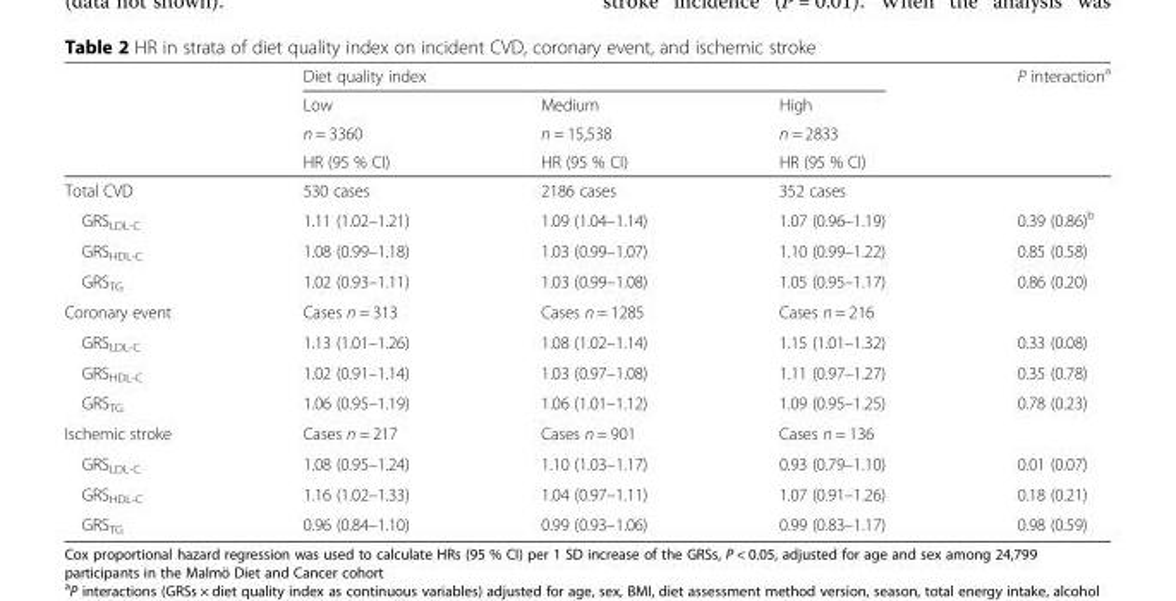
<table><thead><tr><td rowspan="4"></td><td colspan="3">Diet quality index</td><td rowspan="4">P interaction<sup>a</sup></td></tr><tr><td rowspan="3">Low n = 3360 HR (95 % CI)</td><td rowspan="3">Medium n = 15,538 HR (95 % CI)</td><td rowspan="3">High n = 2833 HR (95 % CI)</td></tr><tr></tr><tr></tr></thead><tbody><tr><td>Total CVD</td><td>530 cases</td><td>2186 cases</td><td>352 cases</td><td></td></tr><tr><td>GRS<sub>LDL-C</sub></td><td>1.11 (1.02–1.21)</td><td>1.09 (1.04–1.14)</td><td>1.07 (0.96–1.19)</td><td>0.39 (0.86)<sup>b</sup></td></tr><tr><td>GRS<sub>HDL-C</sub></td><td>1.08 (0.99–1.18)</td><td>1.03 (0.99–1.07)</td><td>1.10 (0.99–1.22)</td><td>0.85 (0.58)</td></tr><tr><td>GRS<sub>TG</sub></td><td>1.02 (0.93–1.11)</td><td>1.03 (0.99–1.08)</td><td>1.05 (0.95–1.17)</td><td>0.86 (0.20)</td></tr><tr><td>Coronary event</td><td>Cases n = 313</td><td>Cases n = 1285</td><td>Cases n = 216</td><td></td></tr><tr><td>GRS<sub>LDL-C</sub></td><td>1.13 (1.01–1.26)</td><td>1.08 (1.02–1.14)</td><td>1.15 (1.01–1.32)</td><td>0.33 (0.08)</td></tr><tr><td>GRS<sub>HDL-C</sub></td><td>1.02 (0.91–1.14)</td><td>1.03 (0.97–1.08)</td><td>1.11 (0.97–1.27)</td><td>0.35 (0.78)</td></tr><tr><td>GRS<sub>TG</sub></td><td>1.06 (0.95–1.19)</td><td>1.06 (1.01–1.12)</td><td>1.09 (0.95–1.25)</td><td>0.78 (0.23)</td></tr><tr><td>Ischemic stroke</td><td>Cases n = 217</td><td>Cases n = 901</td><td>Cases n = 136</td><td></td></tr><tr><td>GRS<sub>LDL-C</sub></td><td>1.08 (0.95–1.24)</td><td>1.10 (1.03–1.17)</td><td>0.93 (0.79–1.10)</td><td>0.01 (0.07)</td></tr><tr><td>GRS<sub>HDL-C</sub></td><td>1.16 (1.02–1.33)</td><td>1.04 (0.97–1.11)</td><td>1.07 (0.91–1.26)</td><td>0.18 (0.21)</td></tr><tr><td>GRS<sub>TG</sub></td><td>0.96 (0.84–1.10)</td><td>0.99 (0.93–1.06)</td><td>0.99 (0.83–1.17)</td><td>0.98 (0.59)</td></tr></tbody></table>